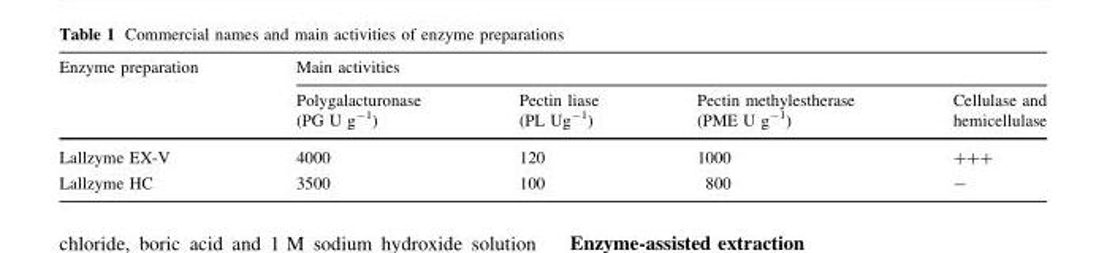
<table><thead><tr><td rowspan="2">Enzyme preparation</td><td colspan="4">Main activities</td></tr><tr><td>Polygalacturonase (PG U g<sup>-1</sup>)</td><td>Pectin liase (PL Ug<sup>-1</sup>)</td><td>Pectin methylestherase (PME U g<sup>-1</sup>)</td><td>Cellulase and hemicellulase</td></tr></thead><tbody><tr><td>Lallzyme EX-V</td><td>4000</td><td>120</td><td>1000</td><td>+++</td></tr><tr><td>Lallzyme HC</td><td>3500</td><td>100</td><td>800</td><td>-</td></tr></tbody></table>